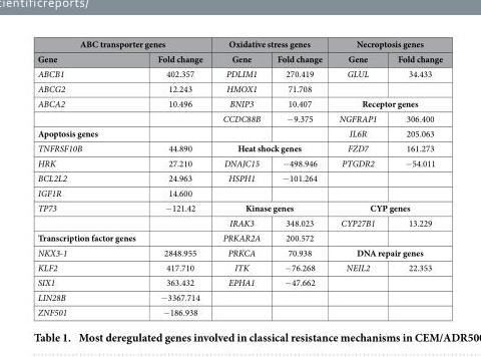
<table><thead><tr><td colspan="2">ABC transporter genes</td><td colspan="2">Oxidative stress genes</td><td colspan="2">Necroptosis genes</td></tr><tr><td>Gene</td><td>Fold change</td><td>Gene</td><td>Fold change</td><td>Gene</td><td>Fold change</td></tr></thead><tbody><tr><td>ABCB1</td><td>402.357</td><td>PDLIM1</td><td>270.419</td><td>GLUL</td><td>34.433</td></tr><tr><td>ABCG2</td><td>12.243</td><td>HMOX1</td><td>71.708</td><td></td><td></td></tr><tr><td rowspan="2">ABCA2</td><td>10.496</td><td>BNIP3</td><td>10.407</td><td colspan="2">Receptor genes</td></tr><tr><td></td><td>CCDC88B</td><td>− 9.375</td><td>NGFRAP1</td><td>306.400</td></tr><tr><td>Apoptosis genes</td><td></td><td></td><td></td><td>IL6R</td><td>205.063</td></tr><tr><td>TNFRSF10B</td><td>44.890</td><td colspan="2">Heat shock genes</td><td>FZD7</td><td>161.273</td></tr><tr><td>HRK</td><td>27.210</td><td>DNAJC15</td><td>− 498.946</td><td>PTGDR2</td><td>− 54.011</td></tr><tr><td>BCL2L2</td><td>24.963</td><td>HSPH1</td><td>− 101.264</td><td></td><td></td></tr><tr><td>IGF1R</td><td>14.600</td><td></td><td></td><td></td><td></td></tr><tr><td rowspan="2">TP73</td><td>− 121.42</td><td colspan="2">Kinase genes</td><td colspan="2">CYP genes</td></tr><tr><td></td><td>IRAK3</td><td>348.023</td><td>CYP27B1</td><td>13.229</td></tr><tr><td>Transcription factor genes</td><td></td><td>PRKAR2A</td><td>200.572</td><td></td><td></td></tr><tr><td>NKX3-1</td><td>2848.955</td><td>PRKCA</td><td>70.938</td><td colspan="2">DNA repair genes</td></tr><tr><td>KLF2</td><td>417.710</td><td>ITK</td><td>− 76.268</td><td>NEIL2</td><td>22.353</td></tr><tr><td>SIX1</td><td>363.432</td><td>EPHA1</td><td>− 47.662</td><td></td><td></td></tr><tr><td>LIN28B</td><td>− 3367.714</td><td></td><td></td><td></td><td></td></tr><tr><td>ZNF501</td><td>− 186.938</td><td></td><td></td><td></td><td></td></tr></tbody></table>